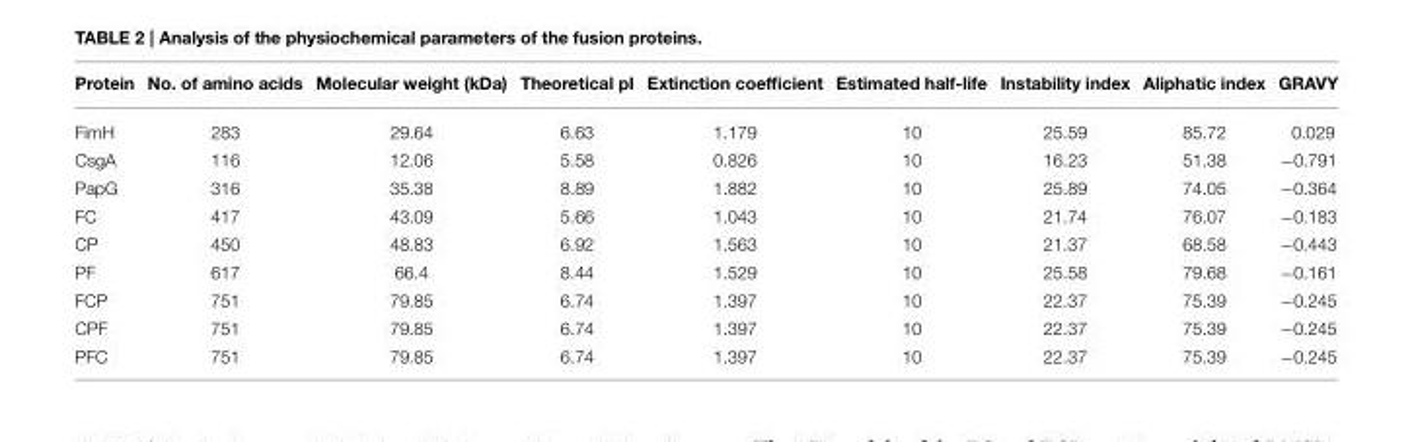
<table><thead><tr><td>Protein</td><td>No. of amino acids</td><td>Molecular weight (kDa)</td><td>Theoretical pI</td><td>Extinction coefficient</td><td>Estimated half-life</td><td>Instability index</td><td>Aliphatic index</td><td>GRAVY</td></tr></thead><tbody><tr><td>FimH</td><td>283</td><td>29.64</td><td>6.63</td><td>1.179</td><td>10</td><td>25.59</td><td>85.72</td><td>0.029</td></tr><tr><td>CsgA</td><td>116</td><td>12.06</td><td>5.58</td><td>0.826</td><td>10</td><td>16.23</td><td>51.38</td><td>−0.791</td></tr><tr><td>PapG</td><td>316</td><td>35.38</td><td>8.89</td><td>1.882</td><td>10</td><td>25.89</td><td>74.05</td><td>−0.364</td></tr><tr><td>FC</td><td>417</td><td>43.09</td><td>5.66</td><td>1.043</td><td>10</td><td>21.74</td><td>76.07</td><td>−0.183</td></tr><tr><td>CP</td><td>450</td><td>48.83</td><td>6.92</td><td>1.563</td><td>10</td><td>21.37</td><td>68.58</td><td>−0.443</td></tr><tr><td>PF</td><td>617</td><td>66.4</td><td>8.44</td><td>1.529</td><td>10</td><td>25.58</td><td>79.68</td><td>−0.161</td></tr><tr><td>FCP</td><td>751</td><td>79.85</td><td>6.74</td><td>1.397</td><td>10</td><td>22.37</td><td>75.39</td><td>−0.245</td></tr><tr><td>CPF</td><td>751</td><td>79.85</td><td>6.74</td><td>1.397</td><td>10</td><td>22.37</td><td>75.39</td><td>−0.245</td></tr><tr><td>PFC</td><td>751</td><td>79.85</td><td>6.74</td><td>1.397</td><td>10</td><td>22.37</td><td>75.39</td><td>−0.245</td></tr></tbody></table>